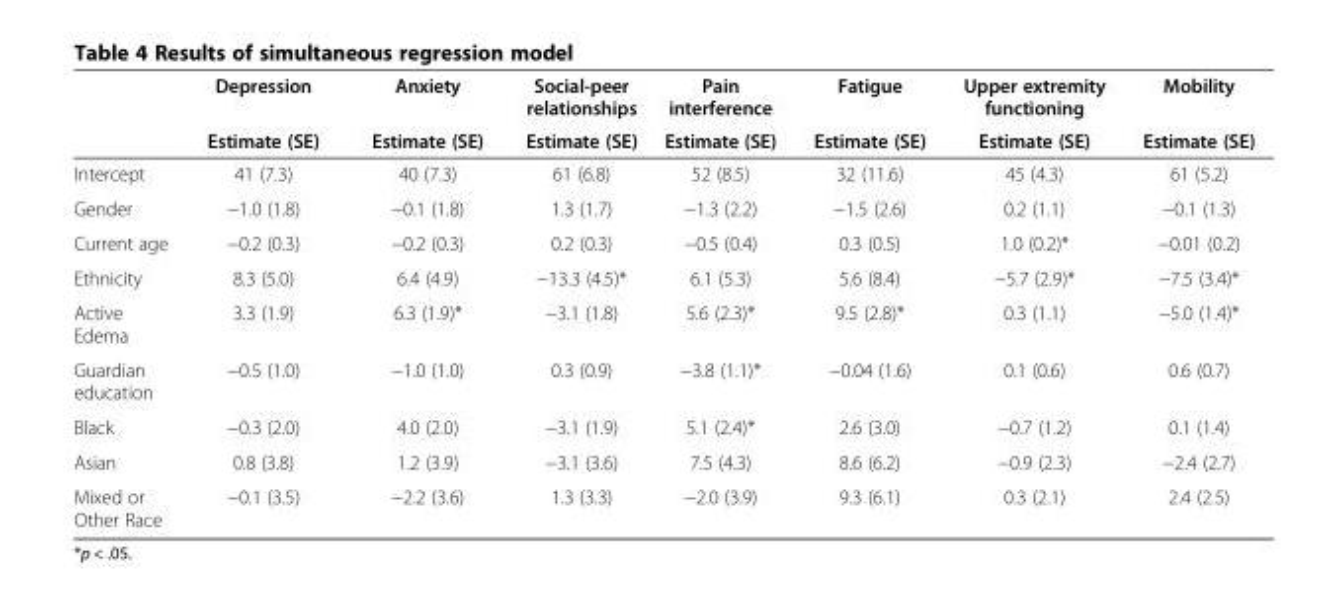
<table><thead><tr><td rowspan="2"></td><td rowspan="2">Depression Estimate (SE)</td><td rowspan="2">Anxiety Estimate (SE)</td><td rowspan="2">Social-peer relationships Estimate (SE)</td><td rowspan="2">Pain interference Estimate (SE)</td><td rowspan="2">Fatigue Estimate (SE)</td><td rowspan="2">Upper extremity functioning Estimate (SE)</td><td rowspan="2">Mobility Estimate (SE)</td></tr><tr></tr></thead><tbody><tr><td>Intercept</td><td>41 (7.3)</td><td>40 (7.3)</td><td>61 (6.8)</td><td>52 (8.5)</td><td>32 (11.6)</td><td>45 (4.3)</td><td>61 (5.2)</td></tr><tr><td>Gender</td><td>−1.0 (1.8)</td><td>−0.1 (1.8)</td><td>1.3 (1.7)</td><td>−1.3 (2.2)</td><td>−1.5 (2.6)</td><td>0.2 (1.1)</td><td>−0.1 (1.3)</td></tr><tr><td>Current age</td><td>−0.2 (0.3)</td><td>−0.2 (0.3)</td><td>0.2 (0.3)</td><td>−0.5 (0.4)</td><td>0.3 (0.5)</td><td>1.0 (0.2)*</td><td>−0.01 (0.2)</td></tr><tr><td>Ethnicity</td><td>8.3 (5.0)</td><td>6.4 (4.9)</td><td>−13.3 (4.5)*</td><td>6.1 (5.3)</td><td>5.6 (8.4)</td><td>−5.7 (2.9)*</td><td>−7.5 (3.4)*</td></tr><tr><td>Active Edema</td><td>3.3 (1.9)</td><td>6.3 (1.9)*</td><td>−3.1 (1.8)</td><td>5.6 (2.3)*</td><td>9.5 (2.8)*</td><td>0.3 (1.1)</td><td>−5.0 (1.4)*</td></tr><tr><td>Guardian education</td><td>−0.5 (1.0)</td><td>−1.0 (1.0)</td><td>0.3 (0.9)</td><td>−3.8 (1.1)*</td><td>−0.04 (1.6)</td><td>0.1 (0.6)</td><td>0.6 (0.7)</td></tr><tr><td>Black</td><td>−0.3 (2.0)</td><td>4.0 (2.0)</td><td>−3.1 (1.9)</td><td>5.1 (2.4)*</td><td>2.6 (3.0)</td><td>−0.7 (1.2)</td><td>0.1 (1.4)</td></tr><tr><td>Asian</td><td>0.8 (3.8)</td><td>1.2 (3.9)</td><td>−3.1 (3.6)</td><td>7.5 (4.3)</td><td>8.6 (6.2)</td><td>−0.9 (2.3)</td><td>−2.4 (2.7)</td></tr><tr><td>Mixed or Other Race</td><td>−0.1 (3.5)</td><td>−2.2 (3.6)</td><td>1.3 (3.3)</td><td>−2.0 (3.9)</td><td>9.3 (6.1)</td><td>0.3 (2.1)</td><td>2.4 (2.5)</td></tr></tbody></table>